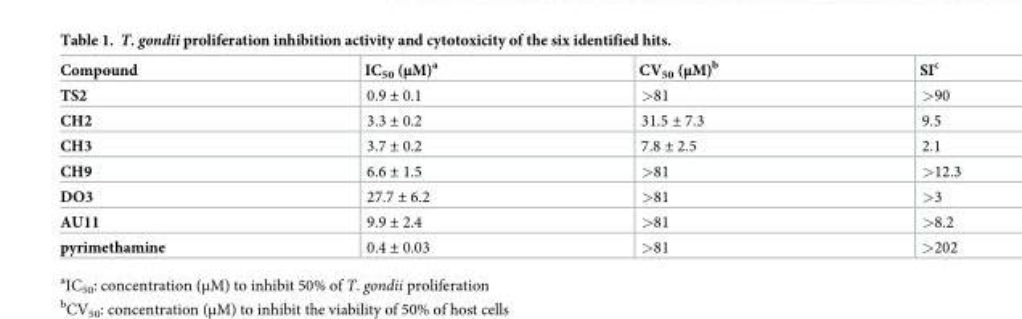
<table><thead><tr><td>Compound</td><td>IC<sub>50</sub> (μM)<sup>a</sup></td><td>CV<sub>50</sub> (μM)<sup>b</sup></td><td>SI<sup>c</sup></td></tr></thead><tbody><tr><td>TS2</td><td>0.9 ± 0.1</td><td>&gt;81</td><td>&gt;90</td></tr><tr><td>CH2</td><td>3.3 ± 0.2</td><td>31.5 ± 7.3</td><td>9.5</td></tr><tr><td>CH3</td><td>3.7 ± 0.2</td><td>7.8 ± 2.5</td><td>2.1</td></tr><tr><td>CH9</td><td>6.6 ± 1.5</td><td>&gt;81</td><td>&gt;12.3</td></tr><tr><td>DO3</td><td>27.7 ± 6.2</td><td>&gt;81</td><td>&gt;3</td></tr><tr><td>AU11</td><td>9.9 ± 2.4</td><td>&gt;81</td><td>&gt;8.2</td></tr><tr><td>pyrimethamine</td><td>0.4 ± 0.03</td><td>&gt;81</td><td>&gt;202</td></tr></tbody></table>